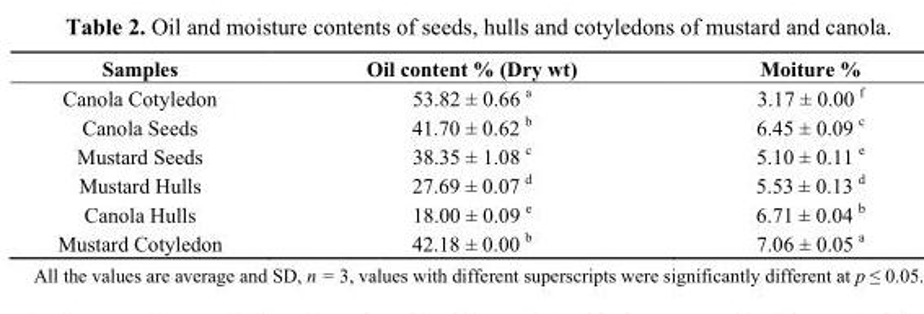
<table><thead><tr><td>Samples</td><td>Oil content % (Dry wt)</td><td>Moiture %</td></tr></thead><tbody><tr><td>Canola Cotyledon</td><td>53.82 ± 0.66 <sup>a</sup></td><td>3.17 ± 0.00 <sup>f</sup></td></tr><tr><td>Canola Seeds</td><td>41.70 ± 0.62 <sup>b</sup></td><td>6.45 ± 0.09 <sup>c</sup></td></tr><tr><td>Mustard Seeds</td><td>38.35 ± 1.08 <sup>c</sup></td><td>5.10 ± 0.11 <sup>e</sup></td></tr><tr><td>Mustard Hulls</td><td>27.69 ± 0.07 <sup>d</sup></td><td>5.53 ± 0.13 <sup>d</sup></td></tr><tr><td>Canola Hulls</td><td>18.00 ± 0.09 <sup>e</sup></td><td>6.71 ± 0.04 <sup>b</sup></td></tr><tr><td>Mustard Cotyledon</td><td>42.18 ± 0.00 <sup>b</sup></td><td>7.06 ± 0.05 <sup>a</sup></td></tr></tbody></table>